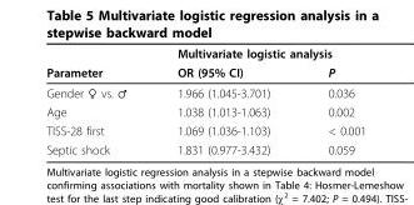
<table><thead><tr><td rowspan="2">Parameter</td><td colspan="2">Multivariate logistic analysis</td></tr><tr><td>OR (95% CI)</td><td>P</td></tr></thead><tbody><tr><td>Gender ♀ vs. ♂</td><td>1.966 (1.045-3.701)</td><td>0.036</td></tr><tr><td>Age</td><td>1.038 (1.013-1.063)</td><td>0.002</td></tr><tr><td>TISS-28 first</td><td>1.069 (1.036-1.103)</td><td>&lt; 0.001</td></tr><tr><td>Septic shock</td><td>1.831 (0.977-3.432)</td><td>0.059</td></tr></tbody></table>